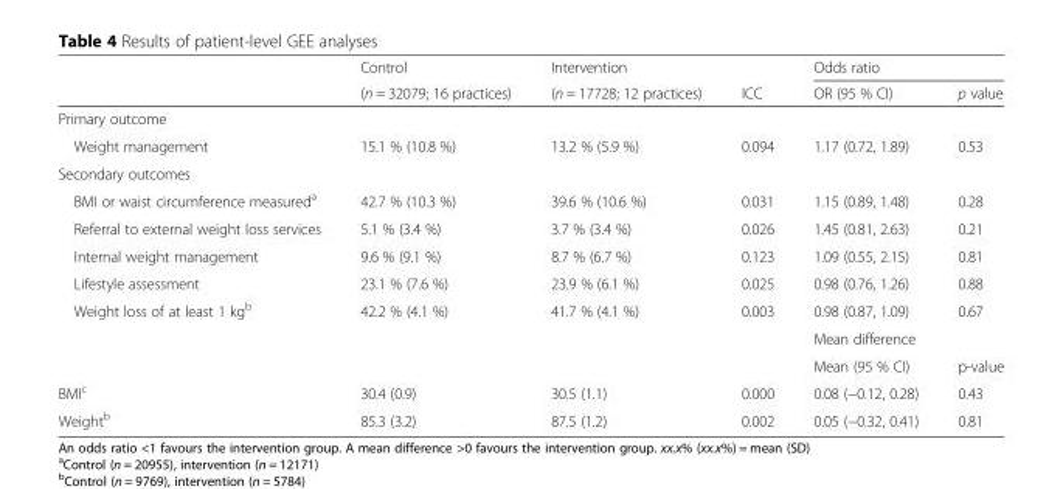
<table><thead><tr><td rowspan="2"></td><td rowspan="2">Control (n = 32079; 16 practices)</td><td rowspan="2">Intervention (n = 17728; 12 practices)</td><td rowspan="2">ICC</td><td colspan="2">Odds ratio</td></tr><tr><td>OR (95 % CI)</td><td>p value</td></tr></thead><tbody><tr><td colspan="6">Primary outcome</td></tr><tr><td>Weight management</td><td>15.1 % (10.8 %)</td><td>13.2 % (5.9 %)</td><td>0.094</td><td>1.17 (0.72, 1.89)</td><td>0.53</td></tr><tr><td colspan="6">Secondary outcomes</td></tr><tr><td>BMI or waist circumference measured<sup>a</sup></td><td>42.7 % (10.3 %)</td><td>39.6 % (10.6 %)</td><td>0.031</td><td>1.15 (0.89, 1.48)</td><td>0.28</td></tr><tr><td>Referral to external weight loss services</td><td>5.1 % (3.4 %)</td><td>3.7 % (3.4 %)</td><td>0.026</td><td>1.45 (0.81, 2.63)</td><td>0.21</td></tr><tr><td>Internal weight management</td><td>9.6 % (9.1 %)</td><td>8.7 % (6.7 %)</td><td>0.123</td><td>1.09 (0.55, 2.15)</td><td>0.81</td></tr><tr><td>Lifestyle assessment</td><td>23.1 % (7.6 %)</td><td>23.9 % (6.1 %)</td><td>0.025</td><td>0.98 (0.76, 1.26)</td><td>0.88</td></tr><tr><td rowspan="3">Weight loss of at least 1 kg<sup>b</sup></td><td>42.2 % (4.1 %)</td><td>41.7 % (4.1 %)</td><td>0.003</td><td>0.98 (0.87, 1.09)</td><td>0.67</td></tr><tr><td></td><td></td><td></td><td colspan="2">Mean difference</td></tr><tr><td></td><td></td><td></td><td>Mean (95 % CI)</td><td>p-value</td></tr><tr><td>BMI<sup>c</sup></td><td>30.4 (0.9)</td><td>30.5 (1.1)</td><td>0.000</td><td>0.08 (−0.12, 0.28)</td><td>0.43</td></tr><tr><td>Weight<sup>b</sup></td><td>85.3 (3.2)</td><td>87.5 (1.2)</td><td>0.002</td><td>0.05 (−0.32, 0.41)</td><td>0.81</td></tr></tbody></table>